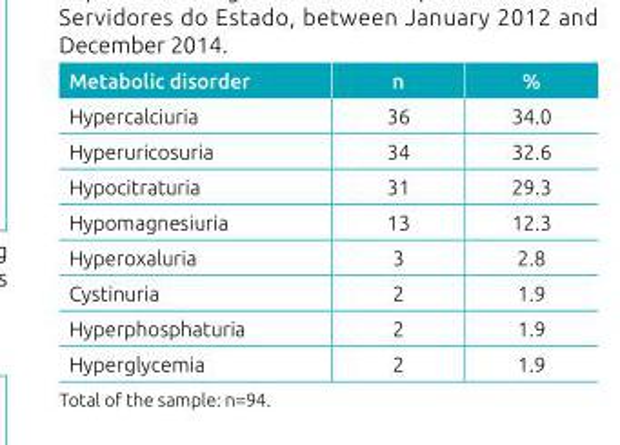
<table><thead><tr><td>Metabolic disorder</td><td>n</td><td>%</td></tr></thead><tbody><tr><td>Hypercalciuria</td><td>36</td><td>34.0</td></tr><tr><td>Hyperuricosuria</td><td>34</td><td>32.6</td></tr><tr><td>Hypocitraturia</td><td>31</td><td>29.3</td></tr><tr><td>Hypomagnesiuria</td><td>13</td><td>12.3</td></tr><tr><td>Hyperoxaluria</td><td>3</td><td>2.8</td></tr><tr><td>Cystinuria</td><td>2</td><td>1.9</td></tr><tr><td>Hyperphosphaturia</td><td>2</td><td>1.9</td></tr><tr><td>Hyperglycemia</td><td>2</td><td>1.9</td></tr></tbody></table>